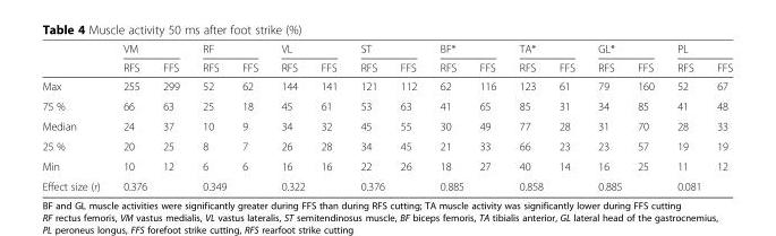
<table><thead><tr><td rowspan="2"></td><td colspan="2">VM</td><td colspan="2">RF</td><td colspan="2">VL</td><td colspan="2">ST</td><td colspan="2">BF*</td><td colspan="2">TA*</td><td colspan="2">GL*</td><td colspan="2">PL</td></tr><tr><td>RFS</td><td>FFS</td><td>RFS</td><td>FFS</td><td>RFS</td><td>FFS</td><td>RFS</td><td>FFS</td><td>RFS</td><td>FFS</td><td>RFS</td><td>FFS</td><td>RFS</td><td>FFS</td><td>RFS</td><td>FFS</td></tr></thead><tbody><tr><td>Max</td><td>255</td><td>299</td><td>52</td><td>62</td><td>144</td><td>141</td><td>121</td><td>112</td><td>62</td><td>116</td><td>123</td><td>61</td><td>79</td><td>160</td><td>52</td><td>67</td></tr><tr><td>75 %</td><td>66</td><td>63</td><td>25</td><td>18</td><td>45</td><td>61</td><td>53</td><td>63</td><td>41</td><td>65</td><td>85</td><td>31</td><td>34</td><td>85</td><td>41</td><td>48</td></tr><tr><td>Median</td><td>24</td><td>37</td><td>10</td><td>9</td><td>34</td><td>32</td><td>45</td><td>55</td><td>30</td><td>49</td><td>77</td><td>28</td><td>31</td><td>70</td><td>28</td><td>33</td></tr><tr><td>25 %</td><td>20</td><td>25</td><td>8</td><td>7</td><td>26</td><td>28</td><td>34</td><td>45</td><td>21</td><td>33</td><td>66</td><td>23</td><td>23</td><td>57</td><td>19</td><td>19</td></tr><tr><td>Min</td><td>10</td><td>12</td><td>6</td><td>6</td><td>16</td><td>16</td><td>22</td><td>26</td><td>18</td><td>27</td><td>40</td><td>14</td><td>16</td><td>25</td><td>11</td><td>12</td></tr><tr><td>Effect size (r)</td><td colspan="2">0.376</td><td colspan="2">0.349</td><td colspan="2">0.322</td><td colspan="2">0.376</td><td colspan="2">0.885</td><td colspan="2">0.858</td><td colspan="2">0.885</td><td colspan="2">0.081</td></tr></tbody></table>